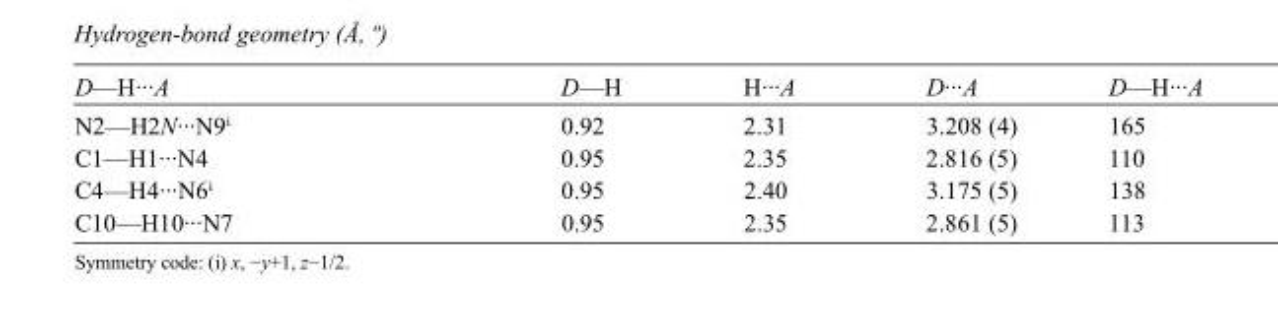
<table><tbody><tr><td>D—H···A</td><td>D—H</td><td>H···A</td><td>D···A</td><td>D—H···A</td></tr><tr><td>N2—H2N···N9<sup>i</sup></td><td>0.92</td><td>2.31</td><td>3.208 (4)</td><td>165</td></tr><tr><td>C1—H1···N4</td><td>0.95</td><td>2.35</td><td>2.816 (5)</td><td>110</td></tr><tr><td>C4—H4···N6<sup>i</sup></td><td>0.95</td><td>2.40</td><td>3.175 (5)</td><td>138</td></tr><tr><td>C10—H10···N7</td><td>0.95</td><td>2.35</td><td>2.861 (5)</td><td>113</td></tr></tbody></table>